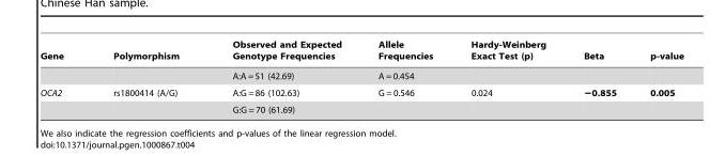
<table><thead><tr><td>Gene</td><td>Polymorphism</td><td>Observed and Expected Genotype Frequencies</td><td>Allele Frequencies</td><td>Hardy-Weinberg Exact Test (p)</td><td>Beta</td><td>p-value</td></tr></thead><tbody><tr><td></td><td></td><td>A:A = 51 (42.69)</td><td>A = 0.454</td><td></td><td></td><td></td></tr><tr><td rowspan="2">OCA2</td><td>rs1800414 (A/G)</td><td>A:G = 86 (102.63)</td><td>G = 0.546</td><td>0.024</td><td>−0.855</td><td>0.005</td></tr><tr><td></td><td>G:G = 70 (61.69)</td><td></td><td></td><td></td><td></td></tr></tbody></table>